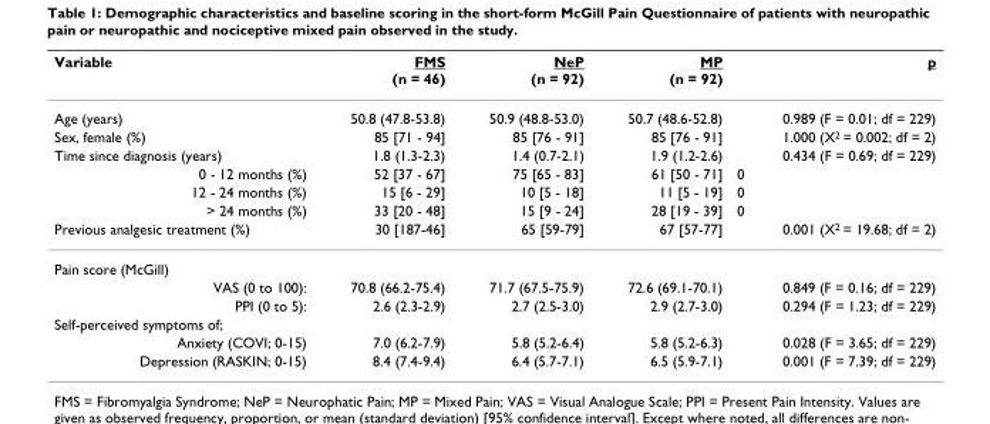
<table><thead><tr><td>Variable</td><td>FMS (n = 46)</td><td>NeP (n = 92)</td><td>MP (n = 92)</td><td>p</td></tr></thead><tbody><tr><td>Age (years)</td><td>50.8 (47.8-53.8)</td><td>50.9 (48.8-53.0)</td><td>50.7 (48.6-52.8)</td><td>0.989 (F = 0.01; df = 229)</td></tr><tr><td>Sex, female (%)</td><td>85 [71 - 94]</td><td>85 [76 - 91]</td><td>85 [76 - 91]</td><td>1.000 (X<sup>2</sup> = 0.002; df = 2)</td></tr><tr><td>Time since diagnosis (years)</td><td>1.8 (1.3-2.3)</td><td>1.4 (0.7-2.1)</td><td>1.9 (1.2-2.6)</td><td>0.434 (F = 0.69; df = 229)</td></tr><tr><td>0 - 12 months (%)</td><td>52 [37 - 67]</td><td>75 [65 - 83]</td><td>61 [50 - 71]</td><td>0</td></tr><tr><td>12 - 24 months (%)</td><td>15 [6 - 29]</td><td>10 [5 - 18]</td><td>11 [5 - 19]</td><td>0</td></tr><tr><td>&gt; 24 months (%)</td><td>33 [20 - 48]</td><td>15 [9 - 24]</td><td>28 [19 - 39]</td><td>0</td></tr><tr><td>Previous analgesic treatment (%)</td><td>30 [187-46]</td><td>65 [59-79]</td><td>67 [57-77]</td><td>0.001 (X<sup>2</sup> = 19.68; df = 2)</td></tr><tr><td colspan="5">Pain score (McGill)</td></tr><tr><td>VAS (0 to 100):</td><td>70.8 (66.2-75.4)</td><td>71.7 (67.5-75.9)</td><td>72.6 (69.1-70.1)</td><td>0.849 (F = 0.16; df = 229)</td></tr><tr><td>PPI (0 to 5):</td><td>2.6 (2.3-2.9)</td><td>2.7 (2.5-3.0)</td><td>2.9 (2.7-3.0)</td><td>0.294 (F = 1.23; df = 229)</td></tr><tr><td colspan="5">Self-perceived symptoms of;</td></tr><tr><td>Anxiety (COVI; 0-15)</td><td>7.0 (6.2-7.9)</td><td>5.8 (5.2-6.4)</td><td>5.8 (5.2-6.3)</td><td>0.028 (F = 3.65; df = 229)</td></tr><tr><td>Depression (RASKIN; 0-15)</td><td>8.4 (7.4-9.4)</td><td>6.4 (5.7-7.1)</td><td>6.5 (5.9-7.1)</td><td>0.001 (F = 7.39; df = 229)</td></tr></tbody></table>